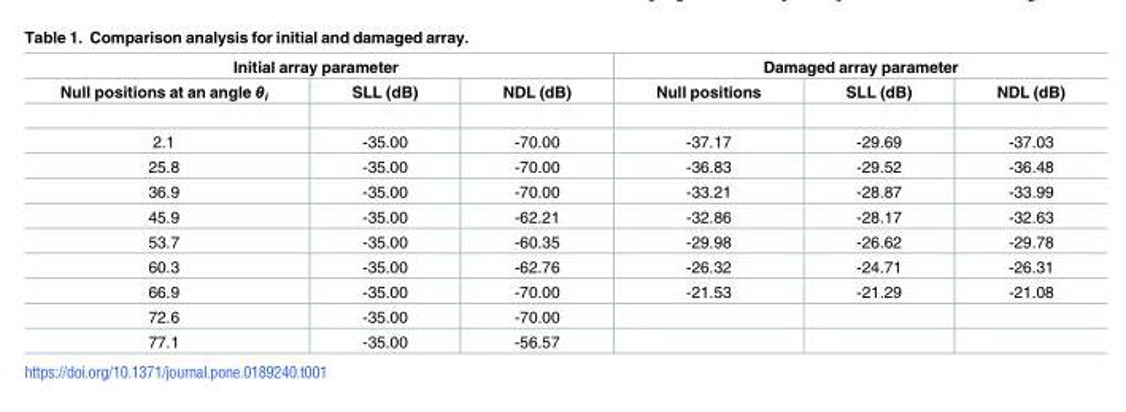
<table><thead><tr><td colspan="3">Initial array parameter</td><td colspan="3">Damaged array parameter</td></tr><tr><td>Null positions at an angle θ<sub>i</sub></td><td>SLL (dB)</td><td>NDL (dB)</td><td>Null positions</td><td>SLL (dB)</td><td>NDL (dB)</td></tr></thead><tbody><tr><td>2.1</td><td>-35.00</td><td>-70.00</td><td>-37.17</td><td>-29.69</td><td>-37.03</td></tr><tr><td>25.8</td><td>-35.00</td><td>-70.00</td><td>-36.83</td><td>-29.52</td><td>-36.48</td></tr><tr><td>36.9</td><td>-35.00</td><td>-70.00</td><td>-33.21</td><td>-28.87</td><td>-33.99</td></tr><tr><td>45.9</td><td>-35.00</td><td>-62.21</td><td>-32.86</td><td>-28.17</td><td>-32.63</td></tr><tr><td>53.7</td><td>-35.00</td><td>-60.35</td><td>-29.98</td><td>-26.62</td><td>-29.78</td></tr><tr><td>60.3</td><td>-35.00</td><td>-62.76</td><td>-26.32</td><td>-24.71</td><td>-26.31</td></tr><tr><td>66.9</td><td>-35.00</td><td>-70.00</td><td>-21.53</td><td>-21.29</td><td>-21.08</td></tr><tr><td>72.6</td><td>-35.00</td><td>-70.00</td><td></td><td></td><td></td></tr><tr><td>77.1</td><td>-35.00</td><td>-56.57</td><td></td><td></td><td></td></tr></tbody></table>